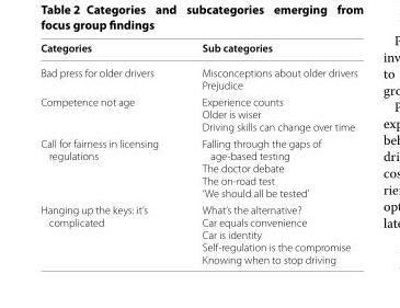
<table><thead><tr><td>Categories</td><td>Sub categories</td></tr></thead><tbody><tr><td>Bad press for older drivers</td><td>Misconceptions about older drivers Prejudice</td></tr><tr><td>Competence not age</td><td>Experience counts Older is wiser Driving skills can change over time</td></tr><tr><td>Call for fairness in licensing regulations</td><td>Falling through the gaps of age-based testing The doctor debate The on-road test ‘We should all be tested’</td></tr><tr><td>Hanging up the keys: it’s complicated</td><td>What’s the alternative? Car equals convenience Car is identity Self-regulation is the compromise Knowing when to stop driving</td></tr></tbody></table>